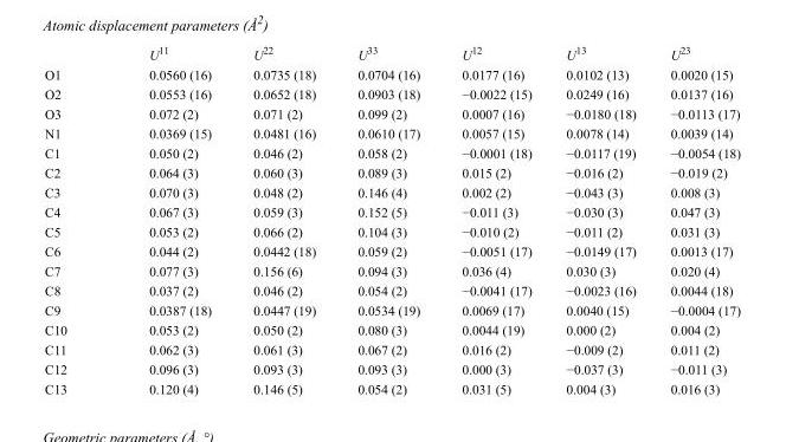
<table><thead><tr><td></td><td>U<sup>11</sup></td><td>U<sup>22</sup></td><td>U<sup>33</sup></td><td>U<sup>12</sup></td><td>U<sup>13</sup></td><td>U<sup>23</sup></td></tr></thead><tbody><tr><td>O1</td><td>0.0560 (16)</td><td>0.0735 (18)</td><td>0.0704 (16)</td><td>0.0177 (16)</td><td>0.0102 (13)</td><td>0.0020 (15)</td></tr><tr><td>O2</td><td>0.0553 (16)</td><td>0.0652 (18)</td><td>0.0903 (18)</td><td>−0.0022 (15)</td><td>0.0249 (16)</td><td>0.0137 (16)</td></tr><tr><td>O3</td><td>0.072 (2)</td><td>0.071 (2)</td><td>0.099 (2)</td><td>0.0007 (16)</td><td>−0.0180 (18)</td><td>−0.0113 (17)</td></tr><tr><td>N1</td><td>0.0369 (15)</td><td>0.0481 (16)</td><td>0.0610 (17)</td><td>0.0057 (15)</td><td>0.0078 (14)</td><td>0.0039 (14)</td></tr><tr><td>C1</td><td>0.050 (2)</td><td>0.046 (2)</td><td>0.058 (2)</td><td>−0.0001 (18)</td><td>−0.0117 (19)</td><td>−0.0054 (18)</td></tr><tr><td>C2</td><td>0.064 (3)</td><td>0.060 (3)</td><td>0.089 (3)</td><td>0.015 (2)</td><td>−0.016 (2)</td><td>−0.019 (2)</td></tr><tr><td>C3</td><td>0.070 (3)</td><td>0.048 (2)</td><td>0.146 (4)</td><td>0.002 (2)</td><td>−0.043 (3)</td><td>0.008 (3)</td></tr><tr><td>C4</td><td>0.067 (3)</td><td>0.059 (3)</td><td>0.152 (5)</td><td>−0.011 (3)</td><td>−0.030 (3)</td><td>0.047 (3)</td></tr><tr><td>C5</td><td>0.053 (2)</td><td>0.066 (2)</td><td>0.104 (3)</td><td>−0.010 (2)</td><td>−0.011 (2)</td><td>0.031 (3)</td></tr><tr><td>C6</td><td>0.044 (2)</td><td>0.0442 (18)</td><td>0.059 (2)</td><td>−0.0051 (17)</td><td>−0.0149 (17)</td><td>0.0013 (17)</td></tr><tr><td>C7</td><td>0.077 (3)</td><td>0.156 (6)</td><td>0.094 (3)</td><td>0.036 (4)</td><td>0.030 (3)</td><td>0.020 (4)</td></tr><tr><td>C8</td><td>0.037 (2)</td><td>0.046 (2)</td><td>0.054 (2)</td><td>−0.0041 (17)</td><td>−0.0023 (16)</td><td>0.0044 (18)</td></tr><tr><td>C9</td><td>0.0387 (18)</td><td>0.0447 (19)</td><td>0.0534 (19)</td><td>0.0069 (17)</td><td>0.0040 (15)</td><td>−0.0004 (17)</td></tr><tr><td>C10</td><td>0.053 (2)</td><td>0.050 (2)</td><td>0.080 (3)</td><td>0.0044 (19)</td><td>0.000 (2)</td><td>0.004 (2)</td></tr><tr><td>C11</td><td>0.062 (3)</td><td>0.061 (3)</td><td>0.067 (2)</td><td>0.016 (2)</td><td>−0.009 (2)</td><td>0.011 (2)</td></tr><tr><td>C12</td><td>0.096 (3)</td><td>0.093 (3)</td><td>0.093 (3)</td><td>0.000 (3)</td><td>−0.037 (3)</td><td>−0.011 (3)</td></tr><tr><td>C13</td><td>0.120 (4)</td><td>0.146 (5)</td><td>0.054 (2)</td><td>0.031 (5)</td><td>0.004 (3)</td><td>0.016 (3)</td></tr></tbody></table>